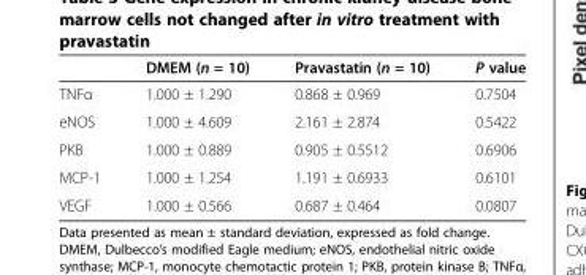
<table><thead><tr><td></td><td>DMEM (n = 10)</td><td>Pravastatin (n = 10)</td><td>P value</td></tr></thead><tbody><tr><td>TNFα</td><td>1.000 ± 1.290</td><td>0.868 ± 0.969</td><td>0.7504</td></tr><tr><td>eNOS</td><td>1.000 ± 4.609</td><td>2.161 ± 2.874</td><td>0.5422</td></tr><tr><td>PKB</td><td>1.000 ± 0.889</td><td>0.905 ± 0.5512</td><td>0.6906</td></tr><tr><td>MCP-1</td><td>1.000 ± 1.254</td><td>1.191 ± 0.6933</td><td>0.6101</td></tr><tr><td>VEGF</td><td>1.000 ± 0.566</td><td>0.687 ± 0.464</td><td>0.0807</td></tr></tbody></table>